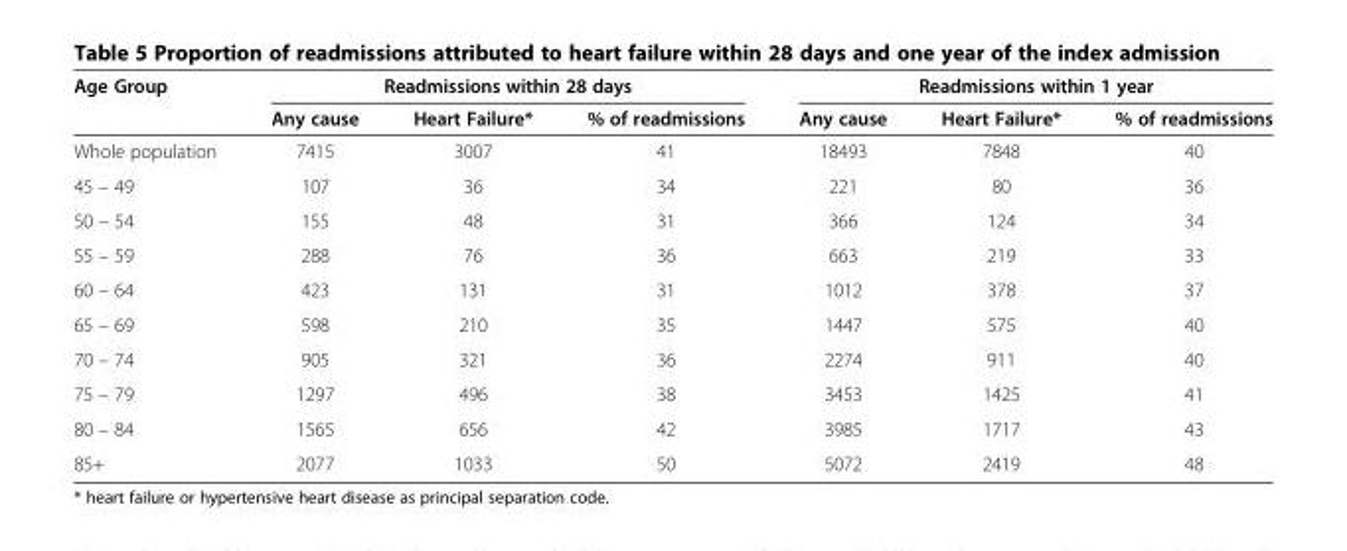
<table><thead><tr><td rowspan="2">Age Group</td><td colspan="3">Readmissions within 28 days</td><td colspan="3">Readmissions within 1 year</td></tr><tr><td>Any cause</td><td>Heart Failure*</td><td>% of readmissions</td><td>Any cause</td><td>Heart Failure*</td><td>% of readmissions</td></tr></thead><tbody><tr><td>Whole population</td><td>7415</td><td>3007</td><td>41</td><td>18493</td><td>7848</td><td>40</td></tr><tr><td>45 – 49</td><td>107</td><td>36</td><td>34</td><td>221</td><td>80</td><td>36</td></tr><tr><td>50 – 54</td><td>155</td><td>48</td><td>31</td><td>366</td><td>124</td><td>34</td></tr><tr><td>55 – 59</td><td>288</td><td>76</td><td>36</td><td>663</td><td>219</td><td>33</td></tr><tr><td>60 – 64</td><td>423</td><td>131</td><td>31</td><td>1012</td><td>378</td><td>37</td></tr><tr><td>65 – 69</td><td>598</td><td>210</td><td>35</td><td>1447</td><td>575</td><td>40</td></tr><tr><td>70 – 74</td><td>905</td><td>321</td><td>36</td><td>2274</td><td>911</td><td>40</td></tr><tr><td>75 – 79</td><td>1297</td><td>496</td><td>38</td><td>3453</td><td>1425</td><td>41</td></tr><tr><td>80 – 84</td><td>1565</td><td>656</td><td>42</td><td>3985</td><td>1717</td><td>43</td></tr><tr><td>85+</td><td>2077</td><td>1033</td><td>50</td><td>5072</td><td>2419</td><td>48</td></tr></tbody></table>